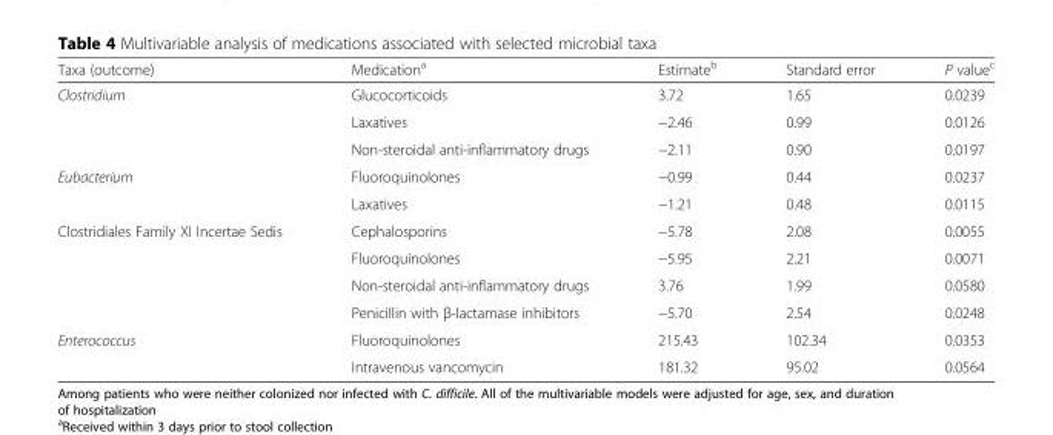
<table><thead><tr><td>Taxa (outcome)</td><td>Medication<sup>a</sup></td><td>Estimate<sup>b</sup></td><td>Standard error</td><td>P value<sup>c</sup></td></tr></thead><tbody><tr><td rowspan="3">Clostridium</td><td>Glucocorticoids</td><td>3.72</td><td>1.65</td><td>0.0239</td></tr><tr><td>Laxatives</td><td>−2.46</td><td>0.99</td><td>0.0126</td></tr><tr><td>Non-steroidal anti-inflammatory drugs</td><td>−2.11</td><td>0.90</td><td>0.0197</td></tr><tr><td rowspan="2">Eubacterium</td><td>Fluoroquinolones</td><td>−0.99</td><td>0.44</td><td>0.0237</td></tr><tr><td>Laxatives</td><td>−1.21</td><td>0.48</td><td>0.0115</td></tr><tr><td rowspan="4">Clostridiales Family XI Incertae Sedis</td><td>Cephalosporins</td><td>−5.78</td><td>2.08</td><td>0.0055</td></tr><tr><td>Fluoroquinolones</td><td>−5.95</td><td>2.21</td><td>0.0071</td></tr><tr><td>Non-steroidal anti-inflammatory drugs</td><td>3.76</td><td>1.99</td><td>0.0580</td></tr><tr><td>Penicillin with β-lactamase inhibitors</td><td>−5.70</td><td>2.54</td><td>0.0248</td></tr><tr><td rowspan="2">Enterococcus</td><td>Fluoroquinolones</td><td>215.43</td><td>102.34</td><td>0.0353</td></tr><tr><td>Intravenous vancomycin</td><td>181.32</td><td>95.02</td><td>0.0564</td></tr></tbody></table>